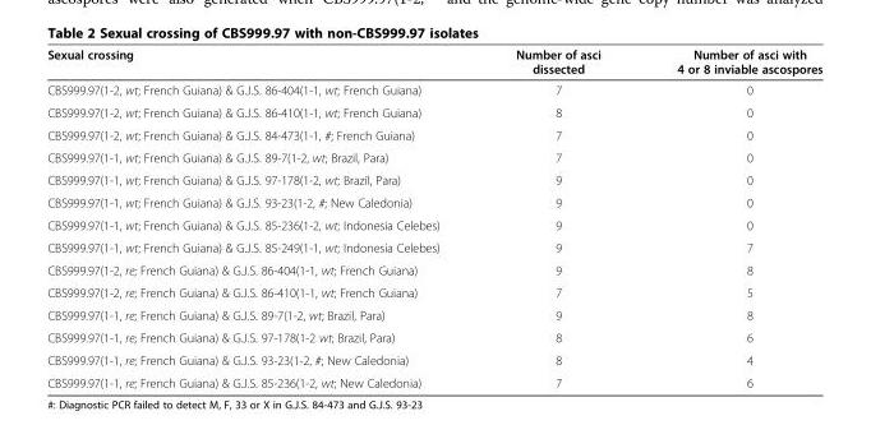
<table><thead><tr><td>Sexual crossing</td><td>Number of asci dissected</td><td>Number of asci with 4 or 8 inviable ascospores</td></tr></thead><tbody><tr><td>CBS999.97(1-2, wt; French Guiana) &amp; G.J.S. 86-404(1-1, wt; French Guiana)</td><td>7</td><td>0</td></tr><tr><td>CBS999.97(1-2, wt; French Guiana) &amp; G.J.S. 86-410(1-1, wt; French Guiana)</td><td>8</td><td>0</td></tr><tr><td>CBS999.97(1-2, wt; French Guiana) &amp; G.J.S. 84-473(1-1, #; French Guiana)</td><td>7</td><td>0</td></tr><tr><td>CBS999.97(1-1, wt; French Guiana) &amp; G.J.S. 89-7(1-2, wt; Brazil, Para)</td><td>7</td><td>0</td></tr><tr><td>CBS999.97(1-1, wt; French Guiana) &amp; G.J.S. 97-178(1-2, wt; Brazil, Para)</td><td>9</td><td>0</td></tr><tr><td>CBS999.97(1-1, wt; French Guiana) &amp; G.J.S. 93-23(1-2, #; New Caledonia)</td><td>9</td><td>0</td></tr><tr><td>CBS999.97(1-1, wt; French Guiana) &amp; G.J.S. 85-236(1-2, wt; Indonesia Celebes)</td><td>9</td><td>0</td></tr><tr><td>CBS999.97(1-1, wt; French Guiana) &amp; G.J.S. 85-249(1-1, wt; Indonesia Celebes)</td><td>9</td><td>7</td></tr><tr><td>CBS999.97(1-2, re; French Guiana) &amp; G.J.S. 86-404(1-1, wt; French Guiana)</td><td>9</td><td>8</td></tr><tr><td>CBS999.97(1-2, re; French Guiana) &amp; G.J.S. 86-410(1-1, wt; French Guiana)</td><td>7</td><td>5</td></tr><tr><td>CBS999.97(1-1, re; French Guiana) &amp; G.J.S. 89-7(1-2, wt; Brazil, Para)</td><td>9</td><td>8</td></tr><tr><td>CBS999.97(1-1, re; French Guiana) &amp; G.J.S. 97-178(1-2 wt; Brazil, Para)</td><td>8</td><td>6</td></tr><tr><td>CBS999.97(1-1, re; French Guiana) &amp; G.J.S. 93-23(1-2, #; New Caledonia)</td><td>8</td><td>4</td></tr><tr><td>CBS999.97(1-1, re; French Guiana) &amp; G.J.S. 85-236(1-2, wt; New Caledonia)</td><td>7</td><td>6</td></tr></tbody></table>